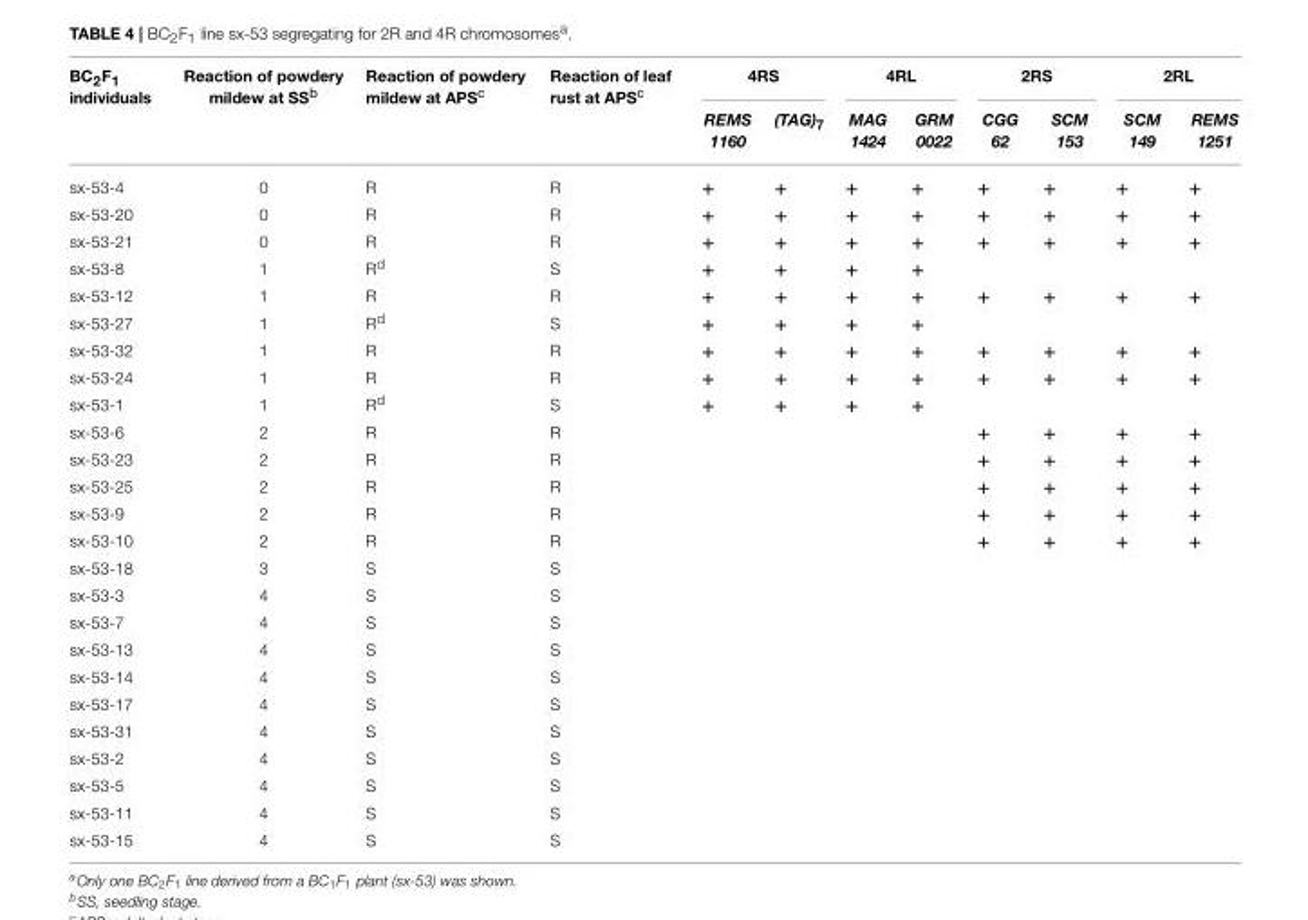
<table><thead><tr><td rowspan="2">BC<sub>2</sub>F<sub>1</sub> individuals</td><td rowspan="2">Reaction of powdery mildew at SS<sup>b</sup></td><td rowspan="2">Reaction of powdery mildew at APS<sup>c</sup></td><td rowspan="2">Reaction of leaf rust at APS<sup>c</sup></td><td colspan="2">4RS</td><td colspan="2">4RL</td><td colspan="2">2RS</td><td colspan="2">2RL</td></tr><tr><td>REMS 1160</td><td>(TAG)<sub>7</sub></td><td>MAG 1424</td><td>GRM 0022</td><td>CGG 62</td><td>SCM 153</td><td>SCM 149</td><td>REMS 1251</td></tr></thead><tbody><tr><td>sx-53-4</td><td>0</td><td>R</td><td>R</td><td>+</td><td>+</td><td>+</td><td>+</td><td>+</td><td>+</td><td>+</td><td>+</td></tr><tr><td>sx-53-20</td><td>0</td><td>R</td><td>R</td><td>+</td><td>+</td><td>+</td><td>+</td><td>+</td><td>+</td><td>+</td><td>+</td></tr><tr><td>sx-53-21</td><td>0</td><td>R</td><td>R</td><td>+</td><td>+</td><td>+</td><td>+</td><td>+</td><td>+</td><td>+</td><td>+</td></tr><tr><td>sx-53-8</td><td>1</td><td>R<sup>d</sup></td><td>S</td><td>+</td><td>+</td><td>+</td><td>+</td><td></td><td></td><td></td><td></td></tr><tr><td>sx-53-12</td><td>1</td><td>R</td><td>R</td><td>+</td><td>+</td><td>+</td><td>+</td><td>+</td><td>+</td><td>+</td><td>+</td></tr><tr><td>sx-53-27</td><td>1</td><td>R<sup>d</sup></td><td>S</td><td>+</td><td>+</td><td>+</td><td>+</td><td></td><td></td><td></td><td></td></tr><tr><td>sx-53-32</td><td>1</td><td>R</td><td>R</td><td>+</td><td>+</td><td>+</td><td>+</td><td>+</td><td>+</td><td>+</td><td>+</td></tr><tr><td>sx-53-24</td><td>1</td><td>R</td><td>R</td><td>+</td><td>+</td><td>+</td><td>+</td><td>+</td><td>+</td><td>+</td><td>+</td></tr><tr><td>sx-53-1</td><td>1</td><td>R<sup>d</sup></td><td>S</td><td>+</td><td>+</td><td>+</td><td>+</td><td></td><td></td><td></td><td></td></tr><tr><td>sx-53-6</td><td>2</td><td>R</td><td>R</td><td></td><td></td><td></td><td></td><td>+</td><td>+</td><td>+</td><td>+</td></tr><tr><td>sx-53-23</td><td>2</td><td>R</td><td>R</td><td></td><td></td><td></td><td></td><td>+</td><td>+</td><td>+</td><td>+</td></tr><tr><td>sx-53-25</td><td>2</td><td>R</td><td>R</td><td></td><td></td><td></td><td></td><td>+</td><td>+</td><td>+</td><td>+</td></tr><tr><td>sx-53-9</td><td>2</td><td>R</td><td>R</td><td></td><td></td><td></td><td></td><td>+</td><td>+</td><td>+</td><td>+</td></tr><tr><td>sx-53-10</td><td>2</td><td>R</td><td>R</td><td></td><td></td><td></td><td></td><td>+</td><td>+</td><td>+</td><td>+</td></tr><tr><td>sx-53-18</td><td>3</td><td>S</td><td>S</td><td></td><td></td><td></td><td></td><td></td><td></td><td></td><td></td></tr><tr><td>sx-53-3</td><td>4</td><td>S</td><td>S</td><td></td><td></td><td></td><td></td><td></td><td></td><td></td><td></td></tr><tr><td>sx-53-7</td><td>4</td><td>S</td><td>S</td><td></td><td></td><td></td><td></td><td></td><td></td><td></td><td></td></tr><tr><td>sx-53-13</td><td>4</td><td>S</td><td>S</td><td></td><td></td><td></td><td></td><td></td><td></td><td></td><td></td></tr><tr><td>sx-53-14</td><td>4</td><td>S</td><td>S</td><td></td><td></td><td></td><td></td><td></td><td></td><td></td><td></td></tr><tr><td>sx-53-17</td><td>4</td><td>S</td><td>S</td><td></td><td></td><td></td><td></td><td></td><td></td><td></td><td></td></tr><tr><td>sx-53-31</td><td>4</td><td>S</td><td>S</td><td></td><td></td><td></td><td></td><td></td><td></td><td></td><td></td></tr><tr><td>sx-53-2</td><td>4</td><td>S</td><td>S</td><td></td><td></td><td></td><td></td><td></td><td></td><td></td><td></td></tr><tr><td>sx-53-5</td><td>4</td><td>S</td><td>S</td><td></td><td></td><td></td><td></td><td></td><td></td><td></td><td></td></tr><tr><td>sx-53-11</td><td>4</td><td>S</td><td>S</td><td></td><td></td><td></td><td></td><td></td><td></td><td></td><td></td></tr><tr><td>sx-53-15</td><td>4</td><td>S</td><td>S</td><td></td><td></td><td></td><td></td><td></td><td></td><td></td><td></td></tr></tbody></table>